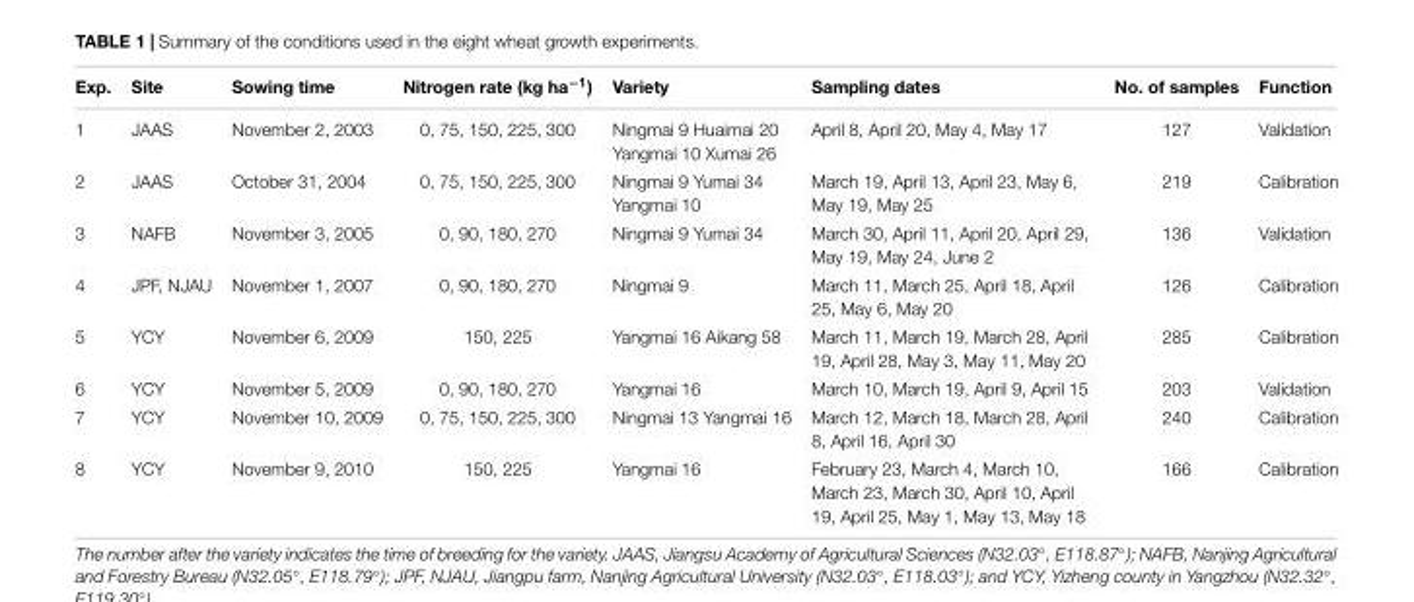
<table><thead><tr><td>Exp.</td><td>Site</td><td>Sowing time</td><td>Nitrogen rate (kg ha<sup>−1</sup>)</td><td>Variety</td><td>Sampling dates</td><td>No. of samples</td><td>Function</td></tr></thead><tbody><tr><td>1</td><td>JAAS</td><td>November 2, 2003</td><td>0, 75, 150, 225, 300</td><td>Ningmai 9 Huaimai 20 Yangmai 10 Xumai 26</td><td>April 8, April 20, May 4, May 17</td><td>127</td><td>Validation</td></tr><tr><td>2</td><td>JAAS</td><td>October 31, 2004</td><td>0, 75, 150, 225, 300</td><td>Ningmai 9 Yumai 34 Yangmai 10</td><td>March 19, April 13, April 23, May 6, May 19, May 25</td><td>219</td><td>Calibration</td></tr><tr><td>3</td><td>NAFB</td><td>November 3, 2005</td><td>0, 90, 180, 270</td><td>Ningmai 9 Yumai 34</td><td>March 30, April 11, April 20, April 29, May 19, May 24, June 2</td><td>136</td><td>Validation</td></tr><tr><td>4</td><td>JPF, NJAU</td><td>November 1, 2007</td><td>0, 90, 180, 270</td><td>Ningmai 9</td><td>March 11, March 25, April 18, April 25, May 6, May 20</td><td>126</td><td>Calibration</td></tr><tr><td>5</td><td>YCY</td><td>November 6, 2009</td><td>150, 225</td><td>Yangmai 16 Aikang 58</td><td>March 11, March 19, March 28, April 19, April 28, May 3, May 11, May 20</td><td>285</td><td>Calibration</td></tr><tr><td>6</td><td>YCY</td><td>November 5, 2009</td><td>0, 90, 180, 270</td><td>Yangmai 16</td><td>March 10, March 19, April 9, April 15</td><td>203</td><td>Validation</td></tr><tr><td>7</td><td>YCY</td><td>November 10, 2009</td><td>0, 75, 150, 225, 300</td><td>Ningmai 13 Yangmai 16</td><td>March 12, March 18, March 28, April 8, April 16, April 30</td><td>240</td><td>Calibration</td></tr><tr><td>8</td><td>YCY</td><td>November 9, 2010</td><td>150, 225</td><td>Yangmai 16</td><td>February 23, March 4, March 10, March 23, March 30, April 10, April 19, April 25, May 1, May 13, May 18</td><td>166</td><td>Calibration</td></tr></tbody></table>